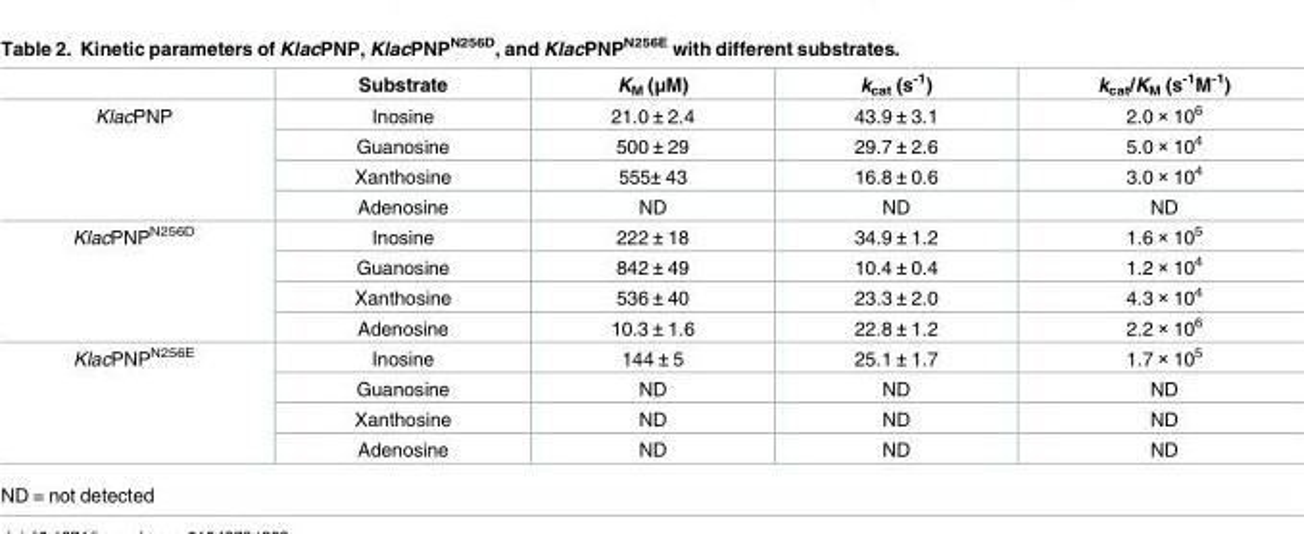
<table><thead><tr><td></td><td>Substrate</td><td>K<sub>M</sub> (μM)</td><td>k<sub>cat</sub> (s<sup>-1</sup>)</td><td>k<sub>cat</sub>/K<sub>M</sub> (s<sup>-1</sup>M<sup>-1</sup>)</td></tr></thead><tbody><tr><td rowspan="4">KlacPNP</td><td>Inosine</td><td>21.0 ± 2.4</td><td>43.9 ± 3.1</td><td>2.0 × 10<sup>6</sup></td></tr><tr><td>Guanosine</td><td>500 ± 29</td><td>29.7 ± 2.6</td><td>5.0 × 10<sup>4</sup></td></tr><tr><td>Xanthosine</td><td>555± 43</td><td>16.8 ± 0.6</td><td>3.0 × 10<sup>4</sup></td></tr><tr><td>Adenosine</td><td>ND</td><td>ND</td><td>ND</td></tr><tr><td rowspan="4">KlacPNP<sup>N256D</sup></td><td>Inosine</td><td>222 ± 18</td><td>34.9 ± 1.2</td><td>1.6 × 10<sup>5</sup></td></tr><tr><td>Guanosine</td><td>842 ± 49</td><td>10.4 ± 0.4</td><td>1.2 × 10<sup>4</sup></td></tr><tr><td>Xanthosine</td><td>536 ± 40</td><td>23.3 ± 2.0</td><td>4.3 × 10<sup>4</sup></td></tr><tr><td>Adenosine</td><td>10.3 ± 1.6</td><td>22.8 ± 1.2</td><td>2.2 × 10<sup>6</sup></td></tr><tr><td rowspan="4">KlacPNP<sup>N256E</sup></td><td>Inosine</td><td>144 ± 5</td><td>25.1 ± 1.7</td><td>1.7 × 10<sup>5</sup></td></tr><tr><td>Guanosine</td><td>ND</td><td>ND</td><td>ND</td></tr><tr><td>Xanthosine</td><td>ND</td><td>ND</td><td>ND</td></tr><tr><td>Adenosine</td><td>ND</td><td>ND</td><td>ND</td></tr></tbody></table>